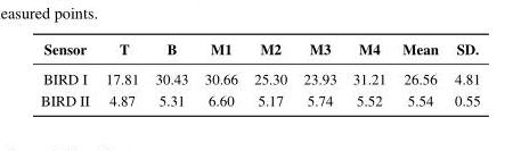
<table><thead><tr><td>Sensor</td><td>T</td><td>B</td><td>M1</td><td>M2</td><td>M3</td><td>M4</td><td>Mean</td><td>SD.</td></tr></thead><tbody><tr><td>BIRD I</td><td>17.81</td><td>30.43</td><td>30.66</td><td>25.30</td><td>23.93</td><td>31.21</td><td>26.56</td><td>4.81</td></tr><tr><td>BIRD II</td><td>4.87</td><td>5.31</td><td>6.60</td><td>5.17</td><td>5.74</td><td>5.52</td><td>5.54</td><td>0.55</td></tr></tbody></table>